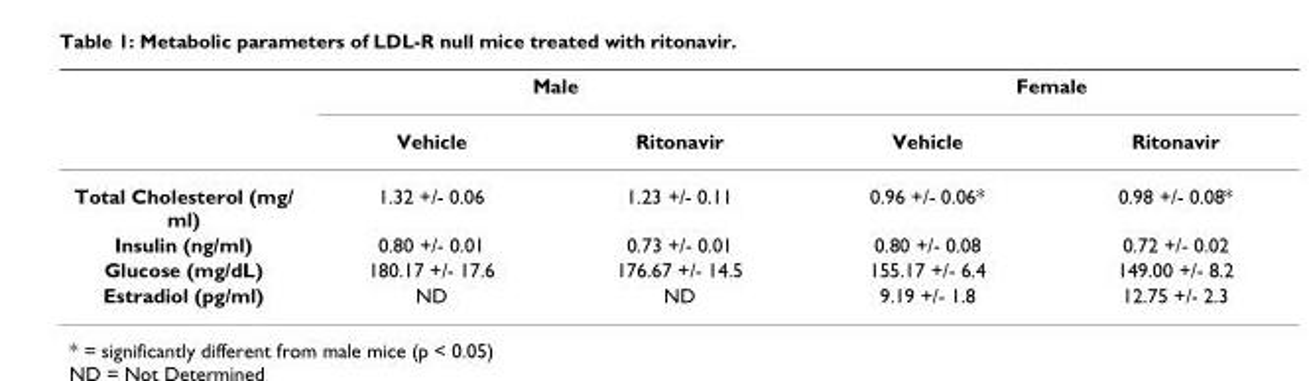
<table><thead><tr><td rowspan="2"></td><td colspan="2">Male</td><td colspan="2">Female</td></tr><tr><td>Vehicle</td><td>Ritonavir</td><td>Vehicle</td><td>Ritonavir</td></tr></thead><tbody><tr><td>Total Cholesterol (mg/ ml)</td><td>1.32 +/- 0.06</td><td>1.23 +/- 0.11</td><td>0.96 +/- 0.06*</td><td>0.98 +/- 0.08*</td></tr><tr><td>Insulin (ng/ml)</td><td>0.80 +/- 0.01</td><td>0.73 +/- 0.01</td><td>0.80 +/- 0.08</td><td>0.72 +/- 0.02</td></tr><tr><td>Glucose (mg/dL)</td><td>180.17 +/- 17.6</td><td>176.67 +/- 14.5</td><td>155.17 +/- 6.4</td><td>149.00 +/- 8.2</td></tr><tr><td>Estradiol (pg/ml)</td><td>ND</td><td>ND</td><td>9.19 +/- 1.8</td><td>12.75 +/- 2.3</td></tr></tbody></table>